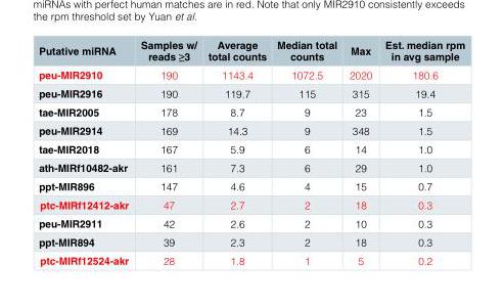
<table><thead><tr><td>Putative miRNA</td><td>Samples w/ reads ≥3</td><td>Average total counts</td><td>Median total counts</td><td>Max</td><td>Est. median rpm in avg sample</td></tr></thead><tbody><tr><td>peu-MIR2910</td><td>190</td><td>1143.4</td><td>1072.5</td><td>2020</td><td>180.6</td></tr><tr><td>peu-MIR2916</td><td>190</td><td>119.7</td><td>115</td><td>315</td><td>19.4</td></tr><tr><td>tae-MIR2005</td><td>178</td><td>8.7</td><td>9</td><td>23</td><td>1.5</td></tr><tr><td>peu-MIR2914</td><td>169</td><td>14.3</td><td>9</td><td>348</td><td>1.5</td></tr><tr><td>tae-MIR2018</td><td>167</td><td>5.9</td><td>6</td><td>14</td><td>1.0</td></tr><tr><td>ath-MIRf10482-akr</td><td>161</td><td>7.3</td><td>6</td><td>29</td><td>1.0</td></tr><tr><td>ppt-MIR896</td><td>147</td><td>4.6</td><td>4</td><td>15</td><td>0.7</td></tr><tr><td>ptc-MIRf12412-akr</td><td>47</td><td>2.7</td><td>2</td><td>18</td><td>0.3</td></tr><tr><td>peu-MIR2911</td><td>42</td><td>2.6</td><td>2</td><td>10</td><td>0.3</td></tr><tr><td>ppt-MIR894</td><td>39</td><td>2.3</td><td>2</td><td>18</td><td>0.3</td></tr><tr><td>ptc-MIRf12524-akr</td><td>28</td><td>1.8</td><td>1</td><td>5</td><td>0.2</td></tr></tbody></table>